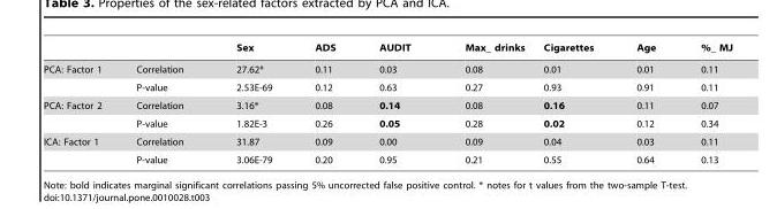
<table><thead><tr><td></td><td></td><td>Sex</td><td>ADS</td><td>AUDIT</td><td>Max_ drinks</td><td>Cigarettes</td><td>Age</td><td>%_ MJ</td></tr></thead><tbody><tr><td rowspan="2">PCA: Factor 1</td><td>Correlation</td><td>27.62*</td><td>0.11</td><td>0.03</td><td>0.08</td><td>0.01</td><td>0.01</td><td>0.11</td></tr><tr><td>P-value</td><td>2.53E-69</td><td>0.12</td><td>0.63</td><td>0.27</td><td>0.93</td><td>0.91</td><td>0.11</td></tr><tr><td rowspan="2">PCA: Factor 2</td><td>Correlation</td><td>3.16*</td><td>0.08</td><td>0.14</td><td>0.08</td><td>0.16</td><td>0.11</td><td>0.07</td></tr><tr><td>P-value</td><td>1.82E-3</td><td>0.26</td><td>0.05</td><td>0.28</td><td>0.02</td><td>0.12</td><td>0.34</td></tr><tr><td rowspan="2">ICA: Factor 1</td><td>Correlation</td><td>31.87</td><td>0.09</td><td>0.00</td><td>0.09</td><td>0.04</td><td>0.03</td><td>0.11</td></tr><tr><td>P-value</td><td>3.06E-79</td><td>0.20</td><td>0.95</td><td>0.21</td><td>0.55</td><td>0.64</td><td>0.13</td></tr></tbody></table>